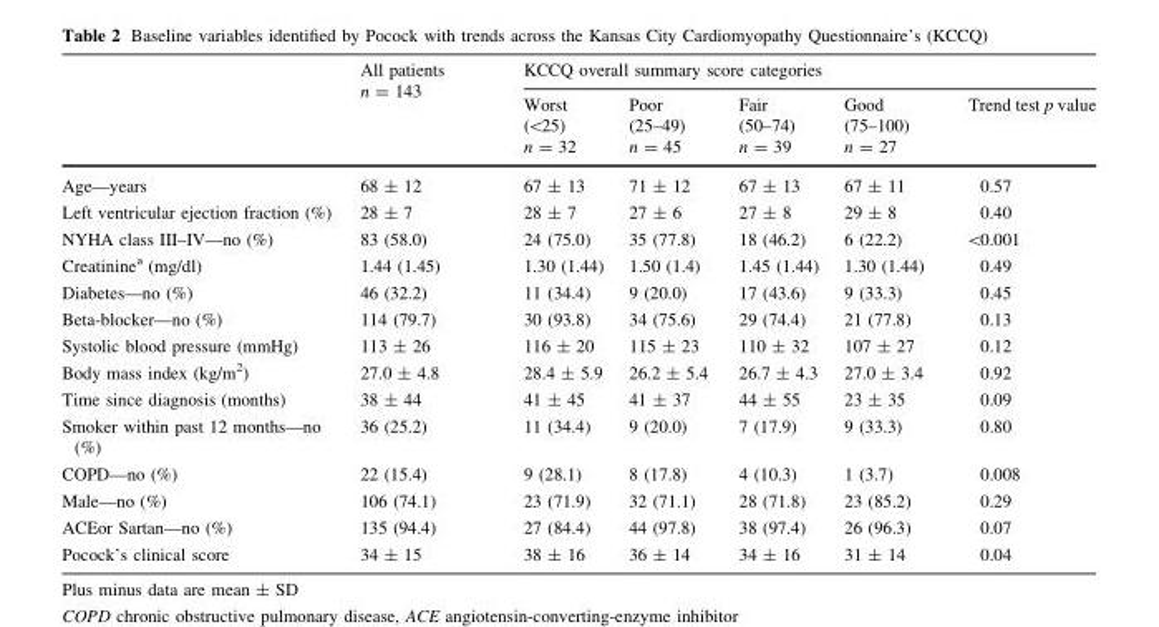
<table><thead><tr><td rowspan="2"></td><td rowspan="2">All patients n = 143</td><td colspan="5">KCCQ overall summary score categories</td></tr><tr><td>Worst (&lt;25) n = 32</td><td>Poor (25–49) n = 45</td><td>Fair (50–74) n = 39</td><td>Good (75–100) n = 27</td><td>Trend test p value</td></tr></thead><tbody><tr><td>Age—years</td><td>68 ± 12</td><td>67 ± 13</td><td>71 ± 12</td><td>67 ± 13</td><td>67 ± 11</td><td>0.57</td></tr><tr><td>Left ventricular ejection fraction (%)</td><td>28 ± 7</td><td>28 ± 7</td><td>27 ± 6</td><td>27 ± 8</td><td>29 ± 8</td><td>0.40</td></tr><tr><td>NYHA class III–IV—no (%)</td><td>83 (58.0)</td><td>24 (75.0)</td><td>35 (77.8)</td><td>18 (46.2)</td><td>6 (22.2)</td><td>&lt;0.001</td></tr><tr><td>Creatinine<sup>a</sup> (mg/dl)</td><td>1.44 (1.45)</td><td>1.30 (1.44)</td><td>1.50 (1.4)</td><td>1.45 (1.44)</td><td>1.30 (1.44)</td><td>0.49</td></tr><tr><td>Diabetes—no (%)</td><td>46 (32.2)</td><td>11 (34.4)</td><td>9 (20.0)</td><td>17 (43.6)</td><td>9 (33.3)</td><td>0.45</td></tr><tr><td>Beta-blocker—no (%)</td><td>114 (79.7)</td><td>30 (93.8)</td><td>34 (75.6)</td><td>29 (74.4)</td><td>21 (77.8)</td><td>0.13</td></tr><tr><td>Systolic blood pressure (mmHg)</td><td>113 ± 26</td><td>116 ± 20</td><td>115 ± 23</td><td>110 ± 32</td><td>107 ± 27</td><td>0.12</td></tr><tr><td>Body mass index (kg/m<sup>2</sup>)</td><td>27.0 ± 4.8</td><td>28.4 ± 5.9</td><td>26.2 ± 5.4</td><td>26.7 ± 4.3</td><td>27.0 ± 3.4</td><td>0.92</td></tr><tr><td>Time since diagnosis (months)</td><td>38 ± 44</td><td>41 ± 45</td><td>41 ± 37</td><td>44 ± 55</td><td>23 ± 35</td><td>0.09</td></tr><tr><td>Smoker within past 12 months—no (%)</td><td>36 (25.2)</td><td>11 (34.4)</td><td>9 (20.0)</td><td>7 (17.9)</td><td>9 (33.3)</td><td>0.80</td></tr><tr><td>COPD—no (%)</td><td>22 (15.4)</td><td>9 (28.1)</td><td>8 (17.8)</td><td>4 (10.3)</td><td>1 (3.7)</td><td>0.008</td></tr><tr><td>Male—no (%)</td><td>106 (74.1)</td><td>23 (71.9)</td><td>32 (71.1)</td><td>28 (71.8)</td><td>23 (85.2)</td><td>0.29</td></tr><tr><td>ACEor Sartan—no (%)</td><td>135 (94.4)</td><td>27 (84.4)</td><td>44 (97.8)</td><td>38 (97.4)</td><td>26 (96.3)</td><td>0.07</td></tr><tr><td>Pocock’s clinical score</td><td>34 ± 15</td><td>38 ± 16</td><td>36 ± 14</td><td>34 ± 16</td><td>31 ± 14</td><td>0.04</td></tr></tbody></table>